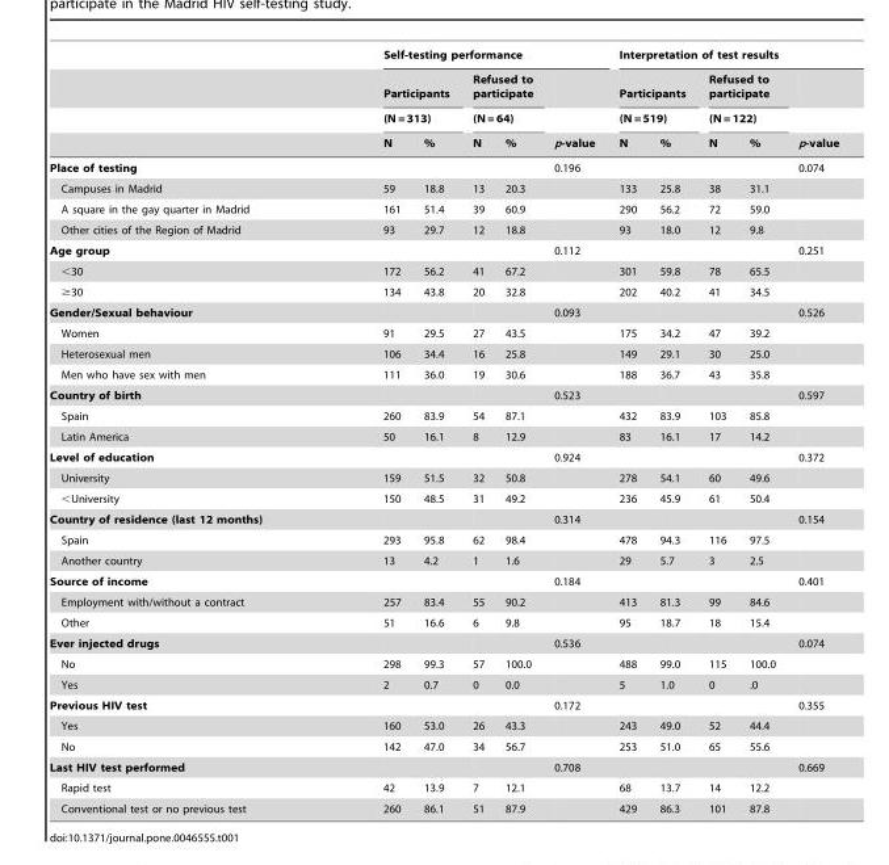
<table><thead><tr><td rowspan="4"></td><td colspan="5">Self-testing performance</td><td colspan="5">Interpretation of test results</td></tr><tr><td rowspan="2" colspan="2">Participants (N = 313)</td><td rowspan="2" colspan="2">Refused to participate (N = 64)</td><td rowspan="3">p-value</td><td rowspan="2" colspan="2">Participants (N = 519)</td><td rowspan="2" colspan="2">Refused to participate (N = 122)</td><td rowspan="3">p-value</td></tr><tr></tr><tr><td>N</td><td>%</td><td>N</td><td>%</td><td>N</td><td>%</td><td>N</td><td>%</td></tr></thead><tbody><tr><td>Place of testing</td><td></td><td></td><td></td><td></td><td>0.196</td><td></td><td></td><td></td><td></td><td>0.074</td></tr><tr><td>Campuses in Madrid</td><td>59</td><td>18.8</td><td>13</td><td>20.3</td><td></td><td>133</td><td>25.8</td><td>38</td><td>31.1</td><td></td></tr><tr><td>A square in the gay quarter in Madrid</td><td>161</td><td>51.4</td><td>39</td><td>60.9</td><td></td><td>290</td><td>56.2</td><td>72</td><td>59.0</td><td></td></tr><tr><td>Other cities of the Region of Madrid</td><td>93</td><td>29.7</td><td>12</td><td>18.8</td><td></td><td>93</td><td>18.0</td><td>12</td><td>9.8</td><td></td></tr><tr><td>Age group</td><td></td><td></td><td></td><td></td><td>0.112</td><td></td><td></td><td></td><td></td><td>0.251</td></tr><tr><td>&lt;30</td><td>172</td><td>56.2</td><td>41</td><td>67.2</td><td></td><td>301</td><td>59.8</td><td>78</td><td>65.5</td><td></td></tr><tr><td>≥30</td><td>134</td><td>43.8</td><td>20</td><td>32.8</td><td></td><td>202</td><td>40.2</td><td>41</td><td>34.5</td><td></td></tr><tr><td>Gender/Sexual behaviour</td><td></td><td></td><td></td><td></td><td>0.093</td><td></td><td></td><td></td><td></td><td>0.526</td></tr><tr><td>Women</td><td>91</td><td>29.5</td><td>27</td><td>43.5</td><td></td><td>175</td><td>34.2</td><td>47</td><td>39.2</td><td></td></tr><tr><td>Heterosexual men</td><td>106</td><td>34.4</td><td>16</td><td>25.8</td><td></td><td>149</td><td>29.1</td><td>30</td><td>25.0</td><td></td></tr><tr><td>Men who have sex with men</td><td>111</td><td>36.0</td><td>19</td><td>30.6</td><td></td><td>188</td><td>36.7</td><td>43</td><td>35.8</td><td></td></tr><tr><td>Country of birth</td><td></td><td></td><td></td><td></td><td>0.523</td><td></td><td></td><td></td><td></td><td>0.597</td></tr><tr><td>Spain</td><td>260</td><td>83.9</td><td>54</td><td>87.1</td><td></td><td>432</td><td>83.9</td><td>103</td><td>85.8</td><td></td></tr><tr><td>Latin America</td><td>50</td><td>16.1</td><td>8</td><td>12.9</td><td></td><td>83</td><td>16.1</td><td>17</td><td>14.2</td><td></td></tr><tr><td>Level of education</td><td></td><td></td><td></td><td></td><td>0.924</td><td></td><td></td><td></td><td></td><td>0.372</td></tr><tr><td>University</td><td>159</td><td>51.5</td><td>32</td><td>50.8</td><td></td><td>278</td><td>54.1</td><td>60</td><td>49.6</td><td></td></tr><tr><td>&lt;University</td><td>150</td><td>48.5</td><td>31</td><td>49.2</td><td></td><td>236</td><td>45.9</td><td>61</td><td>50.4</td><td></td></tr><tr><td>Country of residence (last 12 months)</td><td></td><td></td><td></td><td></td><td>0.314</td><td></td><td></td><td></td><td></td><td>0.154</td></tr><tr><td>Spain</td><td>293</td><td>95.8</td><td>62</td><td>98.4</td><td></td><td>478</td><td>94.3</td><td>116</td><td>97.5</td><td></td></tr><tr><td>Another country</td><td>13</td><td>4.2</td><td>1</td><td>1.6</td><td></td><td>29</td><td>5.7</td><td>3</td><td>2.5</td><td></td></tr><tr><td>Source of income</td><td></td><td></td><td></td><td></td><td>0.184</td><td></td><td></td><td></td><td></td><td>0.401</td></tr><tr><td>Employment with/without a contract</td><td>257</td><td>83.4</td><td>55</td><td>90.2</td><td></td><td>413</td><td>81.3</td><td>99</td><td>84.6</td><td></td></tr><tr><td>Other</td><td>51</td><td>16.6</td><td>6</td><td>9.8</td><td></td><td>95</td><td>18.7</td><td>18</td><td>15.4</td><td></td></tr><tr><td>Ever injected drugs</td><td></td><td></td><td></td><td></td><td>0.536</td><td></td><td></td><td></td><td></td><td>0.074</td></tr><tr><td>No</td><td>298</td><td>99.3</td><td>57</td><td>100.0</td><td></td><td>488</td><td>99.0</td><td>115</td><td>100.0</td><td></td></tr><tr><td>Yes</td><td>2</td><td>0.7</td><td>0</td><td>0.0</td><td></td><td>5</td><td>1.0</td><td>0</td><td>.0</td><td></td></tr><tr><td>Previous HIV test</td><td></td><td></td><td></td><td></td><td>0.172</td><td></td><td></td><td></td><td></td><td>0.355</td></tr><tr><td>Yes</td><td>160</td><td>53.0</td><td>26</td><td>43.3</td><td></td><td>243</td><td>49.0</td><td>52</td><td>44.4</td><td></td></tr><tr><td>No</td><td>142</td><td>47.0</td><td>34</td><td>56.7</td><td></td><td>253</td><td>51.0</td><td>65</td><td>55.6</td><td></td></tr><tr><td>Last HIV test performed</td><td></td><td></td><td></td><td></td><td>0.708</td><td></td><td></td><td></td><td></td><td>0.669</td></tr><tr><td>Rapid test</td><td>42</td><td>13.9</td><td>7</td><td>12.1</td><td></td><td>68</td><td>13.7</td><td>14</td><td>12.2</td><td></td></tr><tr><td>Conventional test or no previous test</td><td>260</td><td>86.1</td><td>51</td><td>87.9</td><td></td><td>429</td><td>86.3</td><td>101</td><td>87.8</td><td></td></tr></tbody></table>